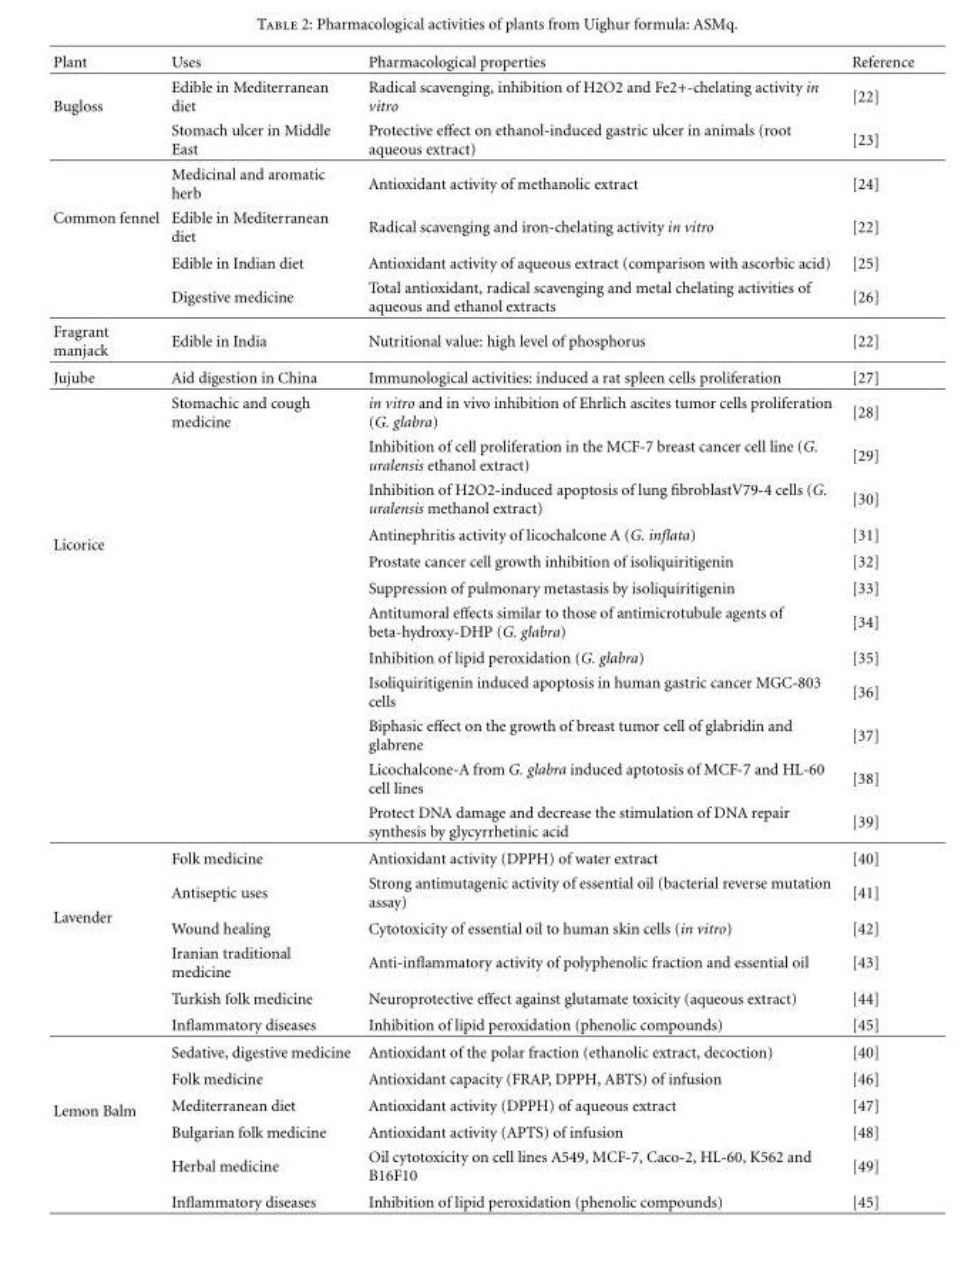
<table><thead><tr><td>Plant</td><td>Uses</td><td>Pharmacological properties</td><td>Reference</td></tr></thead><tbody><tr><td rowspan="2">Bugloss</td><td>Edible in Mediterranean diet</td><td>Radical scavenging, inhibition of H2O2 and Fe2+-chelating activity in vitro</td><td>[22]</td></tr><tr><td>Stomach ulcer in Middle East</td><td>Protective effect on ethanol-induced gastric ulcer in animals (root aqueous extract)</td><td>[23]</td></tr><tr><td rowspan="4">Common fennel</td><td>Medicinal and aromatic herb</td><td>Antioxidant activity of methanolic extract</td><td>[24]</td></tr><tr><td>Edible in Mediterranean diet</td><td>Radical scavenging and iron-chelating activity in vitro</td><td>[22]</td></tr><tr><td>Edible in Indian diet</td><td>Antioxidant activity of aqueous extract (comparison with ascorbic acid)</td><td>[25]</td></tr><tr><td>Digestive medicine</td><td>Total antioxidant, radical scavenging and metal chelating activities of aqueous and ethanol extracts</td><td>[26]</td></tr><tr><td>Fragrant manjack</td><td>Edible in India</td><td>Nutritional value: high level of phosphorus</td><td>[22]</td></tr><tr><td>Jujube</td><td>Aid digestion in China</td><td>Immunological activities: induced a rat spleen cells proliferation</td><td>[27]</td></tr><tr><td rowspan="12">Licorice</td><td>Stomachic and cough medicine</td><td>in vitro and in vivo inhibition of Ehrlich ascites tumor cells proliferation (G. glabra)</td><td>[28]</td></tr><tr><td></td><td>Inhibition of cell proliferation in the MCF-7 breast cancer cell line (G. uralensis ethanol extract)</td><td>[29]</td></tr><tr><td></td><td>Inhibition of H2O2-induced apoptosis of lung fibroblastV79-4 cells (G. uralensis methanol extract)</td><td>[30]</td></tr><tr><td></td><td>Antinephritis activity of licochalcone A (G. inflata)</td><td>[31]</td></tr><tr><td></td><td>Prostate cancer cell growth inhibition of isoliquiritigenin</td><td>[32]</td></tr><tr><td></td><td>Suppression of pulmonary metastasis by isoliquiritigenin</td><td>[33]</td></tr><tr><td></td><td>Antitumoral effects similar to those of antimicrotubule agents of beta-hydroxy-DHP (G. glabra)</td><td>[34]</td></tr><tr><td></td><td>Inhibition of lipid peroxidation (G. glabra)</td><td>[35]</td></tr><tr><td></td><td>Isoliquiritigenin induced apoptosis in human gastric cancer MGC-803 cells</td><td>[36]</td></tr><tr><td></td><td>Biphasic effect on the growth of breast tumor cell of glabridin and glabrene</td><td>[37]</td></tr><tr><td></td><td>Licochalcone-A from G. glabra induced aptotosis of MCF-7 and HL-60 cell lines</td><td>[38]</td></tr><tr><td></td><td>Protect DNA damage and decrease the stimulation of DNA repair synthesis by glycyrrhetinic acid</td><td>[39]</td></tr><tr><td rowspan="6">Lavender</td><td>Folk medicine</td><td>Antioxidant activity (DPPH) of water extract</td><td>[40]</td></tr><tr><td>Antiseptic uses</td><td>Strong antimutagenic activity of essential oil (bacterial reverse mutation assay)</td><td>[41]</td></tr><tr><td>Wound healing</td><td>Cytotoxicity of essential oil to human skin cells (in vitro)</td><td>[42]</td></tr><tr><td>Iranian traditional medicine</td><td>Anti-inflammatory activity of polyphenolic fraction and essential oil</td><td>[43]</td></tr><tr><td>Turkish folk medicine</td><td>Neuroprotective effect against glutamate toxicity (aqueous extract)</td><td>[44]</td></tr><tr><td>Inflammatory diseases</td><td>Inhibition of lipid peroxidation (phenolic compounds)</td><td>[45]</td></tr><tr><td rowspan="6">Lemon Balm</td><td>Sedative, digestive medicine</td><td>Antioxidant of the polar fraction (ethanolic extract, decoction)</td><td>[40]</td></tr><tr><td>Folk medicine</td><td>Antioxidant capacity (FRAP, DPPH, ABTS) of infusion</td><td>[46]</td></tr><tr><td>Mediterranean diet</td><td>Antioxidant activity (DPPH) of aqueous extract</td><td>[47]</td></tr><tr><td>Bulgarian folk medicine</td><td>Antioxidant activity (APTS) of infusion</td><td>[48]</td></tr><tr><td>Herbal medicine</td><td>Oil cytotoxicity on cell lines A549, MCF-7, Caco-2, HL-60, K562 and B16F10</td><td>[49]</td></tr><tr><td>Inflammatory diseases</td><td>Inhibition of lipid peroxidation (phenolic compounds)</td><td>[45]</td></tr></tbody></table>